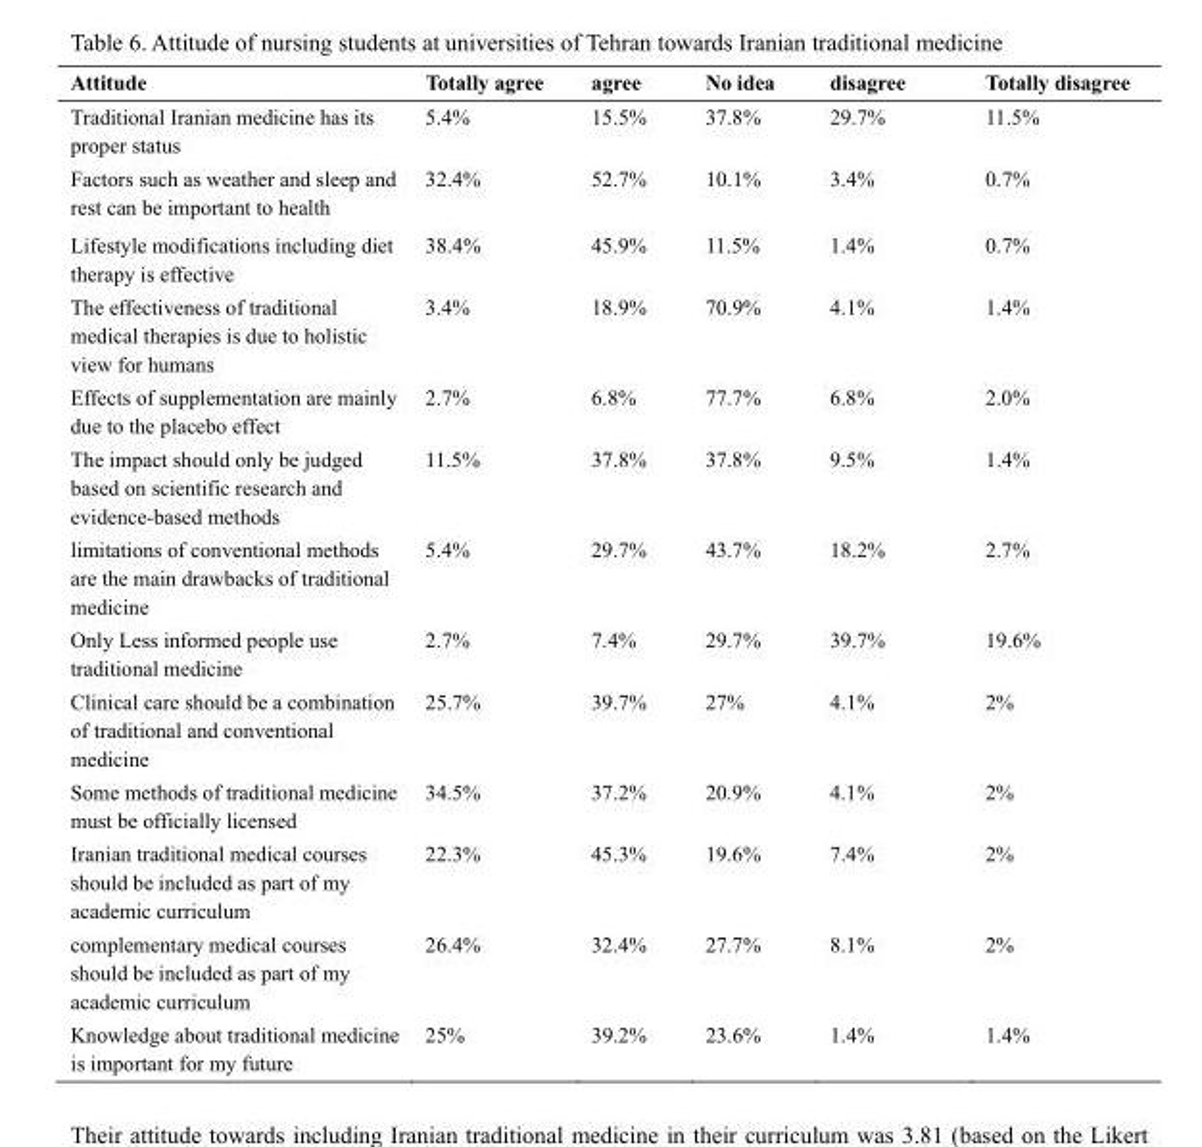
<table><thead><tr><td>Attitude</td><td>Totally agree</td><td>agree</td><td>No idea</td><td>disagree</td><td>Totally disagree</td></tr></thead><tbody><tr><td>Traditional Iranian medicine has its proper status</td><td>5.4%</td><td>15.5%</td><td>37.8%</td><td>29.7%</td><td>11.5%</td></tr><tr><td>Factors such as weather and sleep and rest can be important to health</td><td>32.4%</td><td>52.7%</td><td>10.1%</td><td>3.4%</td><td>0.7%</td></tr><tr><td>Lifestyle modifications including diet therapy is effective</td><td>38.4%</td><td>45.9%</td><td>11.5%</td><td>1.4%</td><td>0.7%</td></tr><tr><td>The effectiveness of traditional medical therapies is due to holistic view for humans</td><td>3.4%</td><td>18.9%</td><td>70.9%</td><td>4.1%</td><td>1.4%</td></tr><tr><td>Effects of supplementation are mainly due to the placebo effect</td><td>2.7%</td><td>6.8%</td><td>77.7%</td><td>6.8%</td><td>2.0%</td></tr><tr><td>The impact should only be judged based on scientific research and evidence-based methods</td><td>11.5%</td><td>37.8%</td><td>37.8%</td><td>9.5%</td><td>1.4%</td></tr><tr><td>limitations of conventional methods are the main drawbacks of traditional medicine</td><td>5.4%</td><td>29.7%</td><td>43.7%</td><td>18.2%</td><td>2.7%</td></tr><tr><td>Only Less informed people use traditional medicine</td><td>2.7%</td><td>7.4%</td><td>29.7%</td><td>39.7%</td><td>19.6%</td></tr><tr><td>Clinical care should be a combination of traditional and conventional medicine</td><td>25.7%</td><td>39.7%</td><td>27%</td><td>4.1%</td><td>2%</td></tr><tr><td>Some methods of traditional medicine must be officially licensed</td><td>34.5%</td><td>37.2%</td><td>20.9%</td><td>4.1%</td><td>2%</td></tr><tr><td>Iranian traditional medical courses should be included as part of my academic curriculum</td><td>22.3%</td><td>45.3%</td><td>19.6%</td><td>7.4%</td><td>2%</td></tr><tr><td>complementary medical courses should be included as part of my academic curriculum</td><td>26.4%</td><td>32.4%</td><td>27.7%</td><td>8.1%</td><td>2%</td></tr><tr><td>Knowledge about traditional medicine is important for my future</td><td>25%</td><td>39.2%</td><td>23.6%</td><td>1.4%</td><td>1.4%</td></tr></tbody></table>